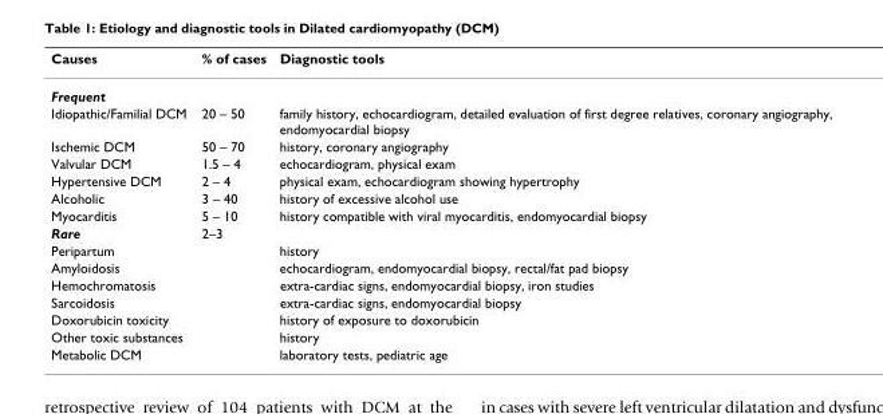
<table><thead><tr><td>Causes</td><td>% of cases</td><td>Diagnostic tools</td></tr></thead><tbody><tr><td colspan="3">Frequent</td></tr><tr><td>Idiopathic/Familial DCM</td><td>20 – 50</td><td>family history, echocardiogram, detailed evaluation of first degree relatives, coronary angiography, endomyocardial biopsy</td></tr><tr><td>Ischemic DCM</td><td>50 – 70</td><td>history, coronary angiography</td></tr><tr><td>Valvular DCM</td><td>1.5 – 4</td><td>echocardiogram, physical exam</td></tr><tr><td>Hypertensive DCM</td><td>2 – 4</td><td>physical exam, echocardiogram showing hypertrophy</td></tr><tr><td>Alcoholic</td><td>3 – 40</td><td>history of excessive alcohol use</td></tr><tr><td>Myocarditis</td><td>5 – 10</td><td>history compatible with viral myocarditis, endomyocardial biopsy</td></tr><tr><td>Rare</td><td>2–3</td><td></td></tr><tr><td>Peripartum</td><td></td><td>history</td></tr><tr><td>Amyloidosis</td><td></td><td>echocardiogram, endomyocardial biopsy, rectal/fat pad biopsy</td></tr><tr><td>Hemochromatosis</td><td></td><td>extra-cardiac signs, endomyocardial biopsy, iron studies</td></tr><tr><td>Sarcoidosis</td><td></td><td>extra-cardiac signs, endomyocardial biopsy</td></tr><tr><td>Doxorubicin toxicity</td><td></td><td>history of exposure to doxorubicin</td></tr><tr><td>Other toxic substances</td><td></td><td>history</td></tr><tr><td>Metabolic DCM</td><td></td><td>laboratory tests, pediatric age</td></tr></tbody></table>